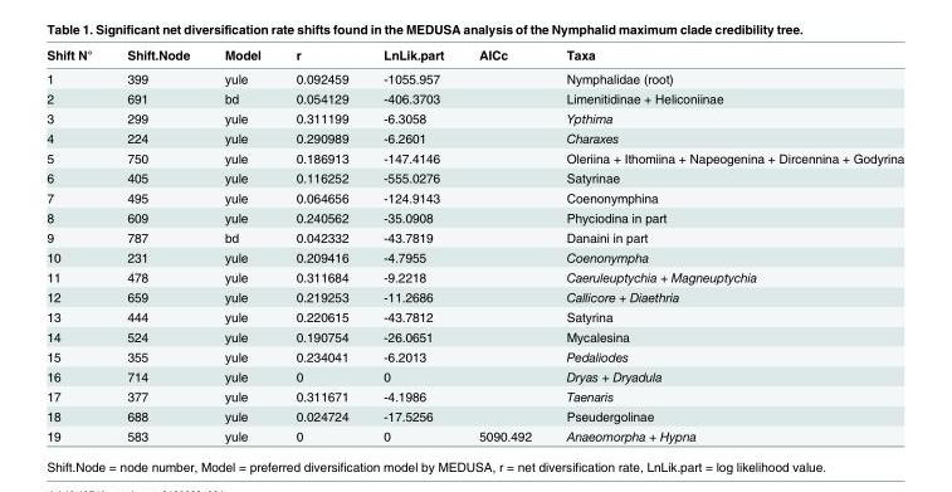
<table><thead><tr><td>Shift N°</td><td>Shift.Node</td><td>Model</td><td>r</td><td>LnLik.part</td><td>AICc</td><td>Taxa</td></tr></thead><tbody><tr><td>1</td><td>399</td><td>yule</td><td>0.092459</td><td>-1055.957</td><td></td><td>Nymphalidae (root)</td></tr><tr><td>2</td><td>691</td><td>bd</td><td>0.054129</td><td>-406.3703</td><td></td><td>Limenitidinae + Heliconiinae</td></tr><tr><td>3</td><td>299</td><td>yule</td><td>0.311199</td><td>-6.3058</td><td></td><td>Ypthima</td></tr><tr><td>4</td><td>224</td><td>yule</td><td>0.290989</td><td>-6.2601</td><td></td><td>Charaxes</td></tr><tr><td>5</td><td>750</td><td>yule</td><td>0.186913</td><td>-147.4146</td><td></td><td>Oleriina + Ithomiina + Napeogenina + Dircennina + Godyrina</td></tr><tr><td>6</td><td>405</td><td>yule</td><td>0.116252</td><td>-555.0276</td><td></td><td>Satyrinae</td></tr><tr><td>7</td><td>495</td><td>yule</td><td>0.064656</td><td>-124.9143</td><td></td><td>Coenonymphina</td></tr><tr><td>8</td><td>609</td><td>yule</td><td>0.240562</td><td>-35.0908</td><td></td><td>Phyciodina in part</td></tr><tr><td>9</td><td>787</td><td>bd</td><td>0.042332</td><td>-43.7819</td><td></td><td>Danaini in part</td></tr><tr><td>10</td><td>231</td><td>yule</td><td>0.209416</td><td>-4.7955</td><td></td><td>Coenonympha</td></tr><tr><td>11</td><td>478</td><td>yule</td><td>0.311684</td><td>-9.2218</td><td></td><td>Caeruleuptychia + Magneuptychia</td></tr><tr><td>12</td><td>659</td><td>yule</td><td>0.219253</td><td>-11.2686</td><td></td><td>Callicore + Diaethria</td></tr><tr><td>13</td><td>444</td><td>yule</td><td>0.220615</td><td>-43.7812</td><td></td><td>Satyrina</td></tr><tr><td>14</td><td>524</td><td>yule</td><td>0.190754</td><td>-26.0651</td><td></td><td>Mycalesina</td></tr><tr><td>15</td><td>355</td><td>yule</td><td>0.234041</td><td>-6.2013</td><td></td><td>Pedaliodes</td></tr><tr><td>16</td><td>714</td><td>yule</td><td>0</td><td>0</td><td></td><td>Dryas + Dryadula</td></tr><tr><td>17</td><td>377</td><td>yule</td><td>0.311671</td><td>-4.1986</td><td></td><td>Taenaris</td></tr><tr><td>18</td><td>688</td><td>yule</td><td>0.024724</td><td>-17.5256</td><td></td><td>Pseudergolinae</td></tr><tr><td>19</td><td>583</td><td>yule</td><td>0</td><td>0</td><td>5090.492</td><td>Anaeomorpha + Hypna</td></tr></tbody></table>